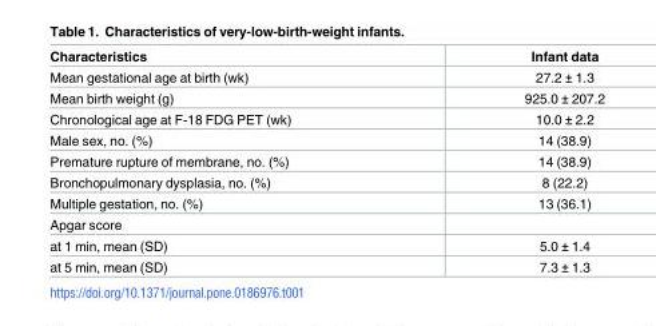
<table><thead><tr><td>Characteristics</td><td>Infant data</td></tr></thead><tbody><tr><td>Mean gestational age at birth (wk)</td><td>27.2 ± 1.3</td></tr><tr><td>Mean birth weight (g)</td><td>925.0 ± 207.2</td></tr><tr><td>Chronological age at F-18 FDG PET (wk)</td><td>10.0 ± 2.2</td></tr><tr><td>Male sex, no. (%)</td><td>14 (38.9)</td></tr><tr><td>Premature rupture of membrane, no. (%)</td><td>14 (38.9)</td></tr><tr><td>Bronchopulmonary dysplasia, no. (%)</td><td>8 (22.2)</td></tr><tr><td>Multiple gestation, no. (%)</td><td>13 (36.1)</td></tr><tr><td colspan="2">Apgar score</td></tr><tr><td>at 1 min, mean (SD)</td><td>5.0 ± 1.4</td></tr><tr><td>at 5 min, mean (SD)</td><td>7.3 ± 1.3</td></tr></tbody></table>